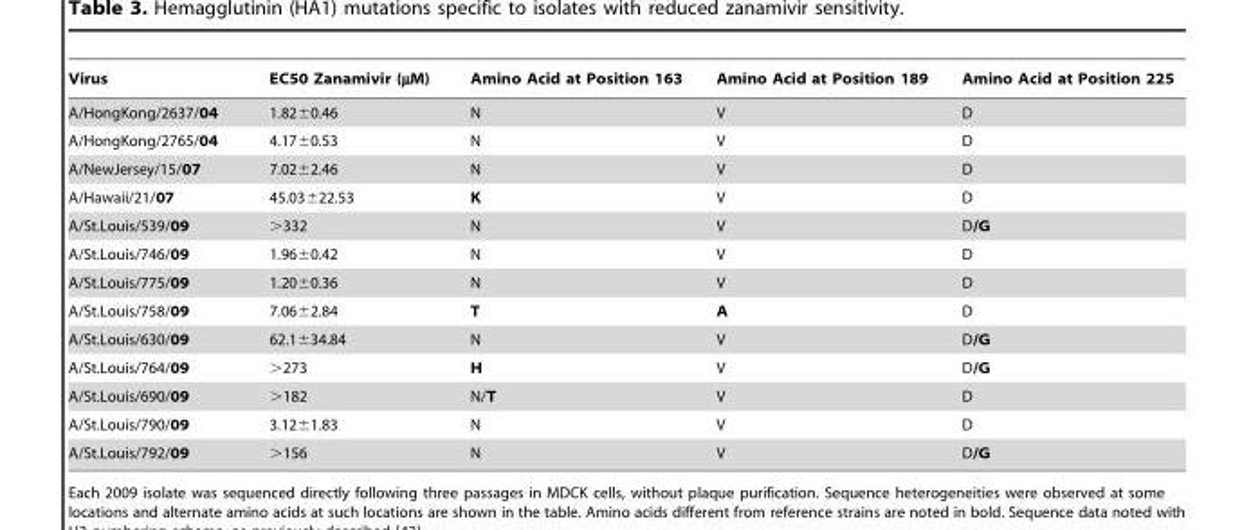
<table><thead><tr><td>Virus</td><td>EC50 Zanamivir (µM)</td><td>Amino Acid at Position 163</td><td>Amino Acid at Position 189</td><td>Amino Acid at Position 225</td></tr></thead><tbody><tr><td>A/HongKong/2637/04</td><td>1.82±0.46</td><td>N</td><td>V</td><td>D</td></tr><tr><td>A/HongKong/2765/04</td><td>4.17±0.53</td><td>N</td><td>V</td><td>D</td></tr><tr><td>A/NewJersey/15/07</td><td>7.02±2.46</td><td>N</td><td>V</td><td>D</td></tr><tr><td>A/Hawaii/21/07</td><td>45.03±22.53</td><td>K</td><td>V</td><td>D</td></tr><tr><td>A/St.Louis/539/09</td><td>&gt;332</td><td>N</td><td>V</td><td>D/G</td></tr><tr><td>A/St.Louis/746/09</td><td>1.96±0.42</td><td>N</td><td>V</td><td>D</td></tr><tr><td>A/St.Louis/775/09</td><td>1.20±0.36</td><td>N</td><td>V</td><td>D</td></tr><tr><td>A/St.Louis/758/09</td><td>7.06±2.84</td><td>T</td><td>A</td><td>D</td></tr><tr><td>A/St.Louis/630/09</td><td>62.1±34.84</td><td>N</td><td>V</td><td>D/G</td></tr><tr><td>A/St.Louis/764/09</td><td>&gt;273</td><td>H</td><td>V</td><td>D/G</td></tr><tr><td>A/St.Louis/690/09</td><td>&gt;182</td><td>N/T</td><td>V</td><td>D</td></tr><tr><td>A/St.Louis/790/09</td><td>3.12±1.83</td><td>N</td><td>V</td><td>D</td></tr><tr><td>A/St.Louis/792/09</td><td>&gt;156</td><td>N</td><td>V</td><td>D/G</td></tr></tbody></table>